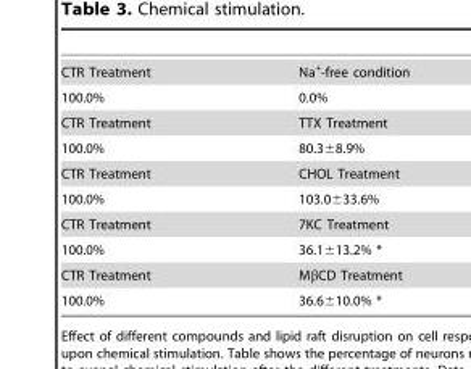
<table><tbody><tr><td>CTR Treatment</td><td>Na<sup>+</sup>-free condition</td></tr><tr><td>100.0%</td><td>0.0%</td></tr><tr><td>CTR Treatment</td><td>TTX Treatment</td></tr><tr><td>100.0%</td><td>80.3±8.9%</td></tr><tr><td>CTR Treatment</td><td>CHOL Treatment</td></tr><tr><td>100.0%</td><td>103.0±33.6%</td></tr><tr><td>CTR Treatment</td><td>7KC Treatment</td></tr><tr><td>100.0%</td><td>36.1±13.2% *</td></tr><tr><td>CTR Treatment</td><td>MβCD Treatment</td></tr><tr><td>100.0%</td><td>36.6±10.0% *</td></tr></tbody></table>